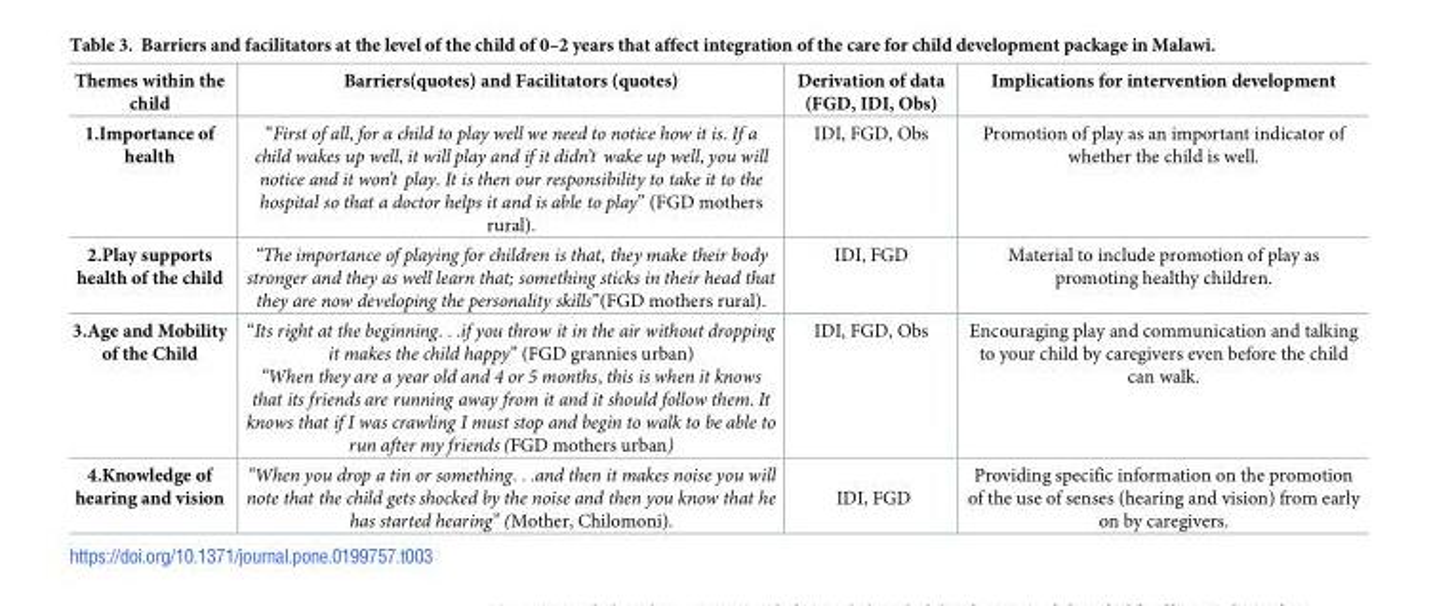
<table><thead><tr><td>Themes within the child</td><td>Barriers(quotes) and Facilitators (quotes)</td><td>Derivation of data (FGD, IDI, Obs)</td><td>Implications for intervention development</td></tr></thead><tbody><tr><td>1.Importance of health</td><td>“First of all, for a child to play well we need to notice how it is. If a child wakes up well, it will play and if it didn’t wake up well, you will notice and it won’t play. It is then our responsibility to take it to the hospital so that a doctor helps it and is able to play” (FGD mothers rural).</td><td>IDI, FGD, Obs</td><td>Promotion of play as an important indicator of whether the child is well.</td></tr><tr><td>2.Play supports health of the child</td><td>“The importance of playing for children is that, they make their body stronger and they as well learn that; something sticks in their head that they are now developing the personality skills”(FGD mothers rural).</td><td>IDI, FGD</td><td>Material to include promotion of play as promoting healthy children.</td></tr><tr><td>3.Age and Mobility of the Child</td><td>“Its right at the beginning. . .if you throw it in the air without dropping it makes the child happy” (FGD grannies urban) “When they are a year old and 4 or 5 months, this is when it knows that its friends are running away from it and it should follow them. It knows that if I was crawling I must stop and begin to walk to be able to run after my friends (FGD mothers urban)</td><td>IDI, FGD, Obs</td><td>Encouraging play and communication and talking to your child by caregivers even before the child can walk.</td></tr><tr><td>4.Knowledge of hearing and vision</td><td>“When you drop a tin or something. . .and then it makes noise you will note that the child gets shocked by the noise and then you know that he has started hearing” (Mother, Chilomoni).</td><td>IDI, FGD</td><td>Providing specific information on the promotion of the use of senses (hearing and vision) from early on by caregivers.</td></tr></tbody></table>